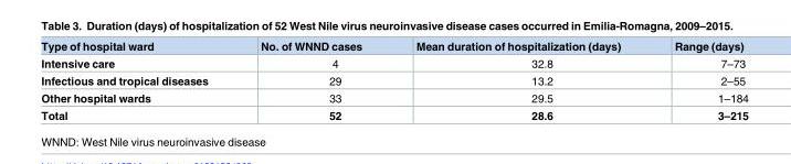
<table><thead><tr><td>Type of hospital ward</td><td>No. of WNND cases</td><td>Mean duration of hospitalization (days)</td><td>Range (days)</td></tr></thead><tbody><tr><td>Intensive care</td><td>4</td><td>32.8</td><td>7–73</td></tr><tr><td>Infectious and tropical diseases</td><td>29</td><td>13.2</td><td>2–55</td></tr><tr><td>Other hospital wards</td><td>33</td><td>29.5</td><td>1–184</td></tr><tr><td>Total</td><td>52</td><td>28.6</td><td>3–215</td></tr></tbody></table>